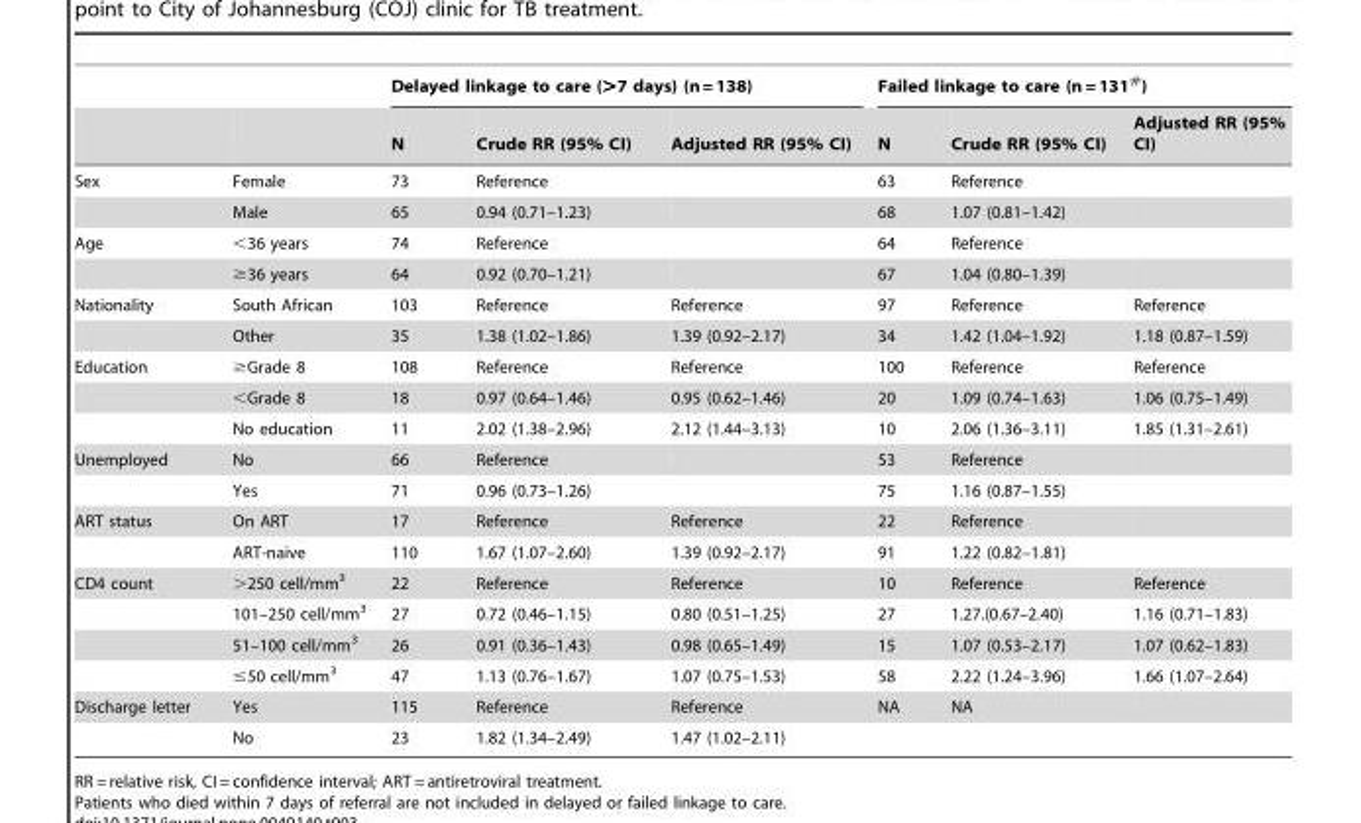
<table><thead><tr><td rowspan="2"></td><td rowspan="2"></td><td colspan="3">Delayed linkage to care (&gt;7 days) (n = 138)</td><td colspan="3">Failed linkage to care (n = 131<sup>#</sup>)</td></tr><tr><td>N</td><td>Crude RR (95% CI)</td><td>Adjusted RR (95% CI)</td><td>N</td><td>Crude RR (95% CI)</td><td>Adjusted RR (95% CI)</td></tr></thead><tbody><tr><td rowspan="2">Sex</td><td>Female</td><td>73</td><td>Reference</td><td></td><td>63</td><td>Reference</td><td></td></tr><tr><td>Male</td><td>65</td><td>0.94 (0.71–1.23)</td><td></td><td>68</td><td>1.07 (0.81–1.42)</td><td></td></tr><tr><td rowspan="2">Age</td><td>&lt;36 years</td><td>74</td><td>Reference</td><td></td><td>64</td><td>Reference</td><td></td></tr><tr><td>≥36 years</td><td>64</td><td>0.92 (0.70–1.21)</td><td></td><td>67</td><td>1.04 (0.80–1.39)</td><td></td></tr><tr><td rowspan="2">Nationality</td><td>South African</td><td>103</td><td>Reference</td><td>Reference</td><td>97</td><td>Reference</td><td>Reference</td></tr><tr><td>Other</td><td>35</td><td>1.38 (1.02–1.86)</td><td>1.39 (0.92–2.17)</td><td>34</td><td>1.42 (1.04–1.92)</td><td>1.18 (0.87–1.59)</td></tr><tr><td rowspan="3">Education</td><td>≥Grade 8</td><td>108</td><td>Reference</td><td>Reference</td><td>100</td><td>Reference</td><td>Reference</td></tr><tr><td>&lt;Grade 8</td><td>18</td><td>0.97 (0.64–1.46)</td><td>0.95 (0.62–1.46)</td><td>20</td><td>1.09 (0.74–1.63)</td><td>1.06 (0.75–1.49)</td></tr><tr><td>No education</td><td>11</td><td>2.02 (1.38–2.96)</td><td>2.12 (1.44–3.13)</td><td>10</td><td>2.06 (1.36–3.11)</td><td>1.85 (1.31–2.61)</td></tr><tr><td rowspan="2">Unemployed</td><td>No</td><td>66</td><td>Reference</td><td></td><td>53</td><td>Reference</td><td></td></tr><tr><td>Yes</td><td>71</td><td>0.96 (0.73–1.26)</td><td></td><td>75</td><td>1.16 (0.87–1.55)</td><td></td></tr><tr><td rowspan="2">ART status</td><td>On ART</td><td>17</td><td>Reference</td><td>Reference</td><td>22</td><td>Reference</td><td></td></tr><tr><td>ART-naive</td><td>110</td><td>1.67 (1.07–2.60)</td><td>1.39 (0.92–2.17)</td><td>91</td><td>1.22 (0.82–1.81)</td><td></td></tr><tr><td rowspan="4">CD4 count</td><td>&gt;250 cell/mm<sup>3</sup></td><td>22</td><td>Reference</td><td>Reference</td><td>10</td><td>Reference</td><td>Reference</td></tr><tr><td>101–250 cell/mm<sup>3</sup></td><td>27</td><td>0.72 (0.46–1.15)</td><td>0.80 (0.51–1.25)</td><td>27</td><td>1.27.(0.67–2.40)</td><td>1.16 (0.71–1.83)</td></tr><tr><td>51–100 cell/mm<sup>3</sup></td><td>26</td><td>0.91 (0.36–1.43)</td><td>0.98 (0.65–1.49)</td><td>15</td><td>1.07 (0.53–2.17)</td><td>1.07 (0.62–1.83)</td></tr><tr><td>≤50 cell/mm<sup>3</sup></td><td>47</td><td>1.13 (0.76–1.67)</td><td>1.07 (0.75–1.53)</td><td>58</td><td>2.22 (1.24–3.96)</td><td>1.66 (1.07–2.64)</td></tr><tr><td rowspan="2">Discharge letter</td><td>Yes</td><td>115</td><td>Reference</td><td>Reference</td><td>NA</td><td>NA</td><td></td></tr><tr><td>No</td><td>23</td><td>1.82 (1.34–2.49)</td><td>1.47 (1.02–2.11)</td><td></td><td></td><td></td></tr></tbody></table>